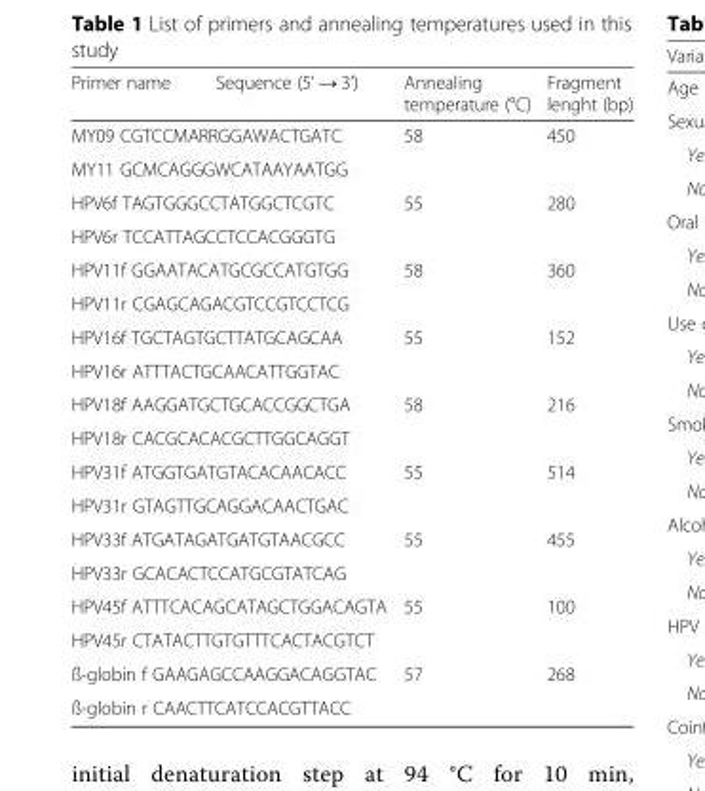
<table><thead><tr><td>Primer name</td><td>Sequence (5’ → 3’)</td><td>Annealing temperature (°C)</td><td>Fragment lenght (bp)</td></tr></thead><tbody><tr><td colspan="2">MY09 CGTCCMARRGGAWACTGATC</td><td rowspan="2">58</td><td rowspan="2">450</td></tr><tr><td colspan="2">MY11 GCMCAGGGWCATAAYAATGG</td></tr><tr><td colspan="2">HPV6f TAGTGGGCCTATGGCTCGTC</td><td rowspan="2">55</td><td rowspan="2">280</td></tr><tr><td colspan="2">HPV6r TCCATTAGCCTCCACGGGTG</td></tr><tr><td colspan="2">HPV11f GGAATACATGCGCCATGTGG</td><td rowspan="2">58</td><td rowspan="2">360</td></tr><tr><td colspan="2">HPV11r CGAGCAGACGTCCGTCCTCG</td></tr><tr><td colspan="2">HPV16f TGCTAGTGCTTATGCAGCAA</td><td rowspan="2">55</td><td rowspan="2">152</td></tr><tr><td colspan="2">HPV16r ATTTACTGCAACATTGGTAC</td></tr><tr><td colspan="2">HPV18f AAGGATGCTGCACCGGCTGA</td><td rowspan="2">58</td><td rowspan="2">216</td></tr><tr><td colspan="2">HPV18r CACGCACACGCTTGGCAGGT</td></tr><tr><td colspan="2">HPV31f ATGGTGATGTACACAACACC</td><td rowspan="2">55</td><td rowspan="2">514</td></tr><tr><td colspan="2">HPV31r GTAGTTGCAGGACAACTGAC</td></tr><tr><td colspan="2">HPV33f ATGATAGATGATGTAACGCC</td><td rowspan="2">55</td><td rowspan="2">455</td></tr><tr><td colspan="2">HPV33r GCACACTCCATGCGTATCAG</td></tr><tr><td colspan="2">HPV45f ATTTCACAGCATAGCTGGACAGTA</td><td rowspan="2">55</td><td rowspan="2">100</td></tr><tr><td colspan="2">HPV45r CTATACTTGTGTTTCACTACGTCT</td></tr><tr><td colspan="2">ß-globin f GAAGAGCCAAGGACAGGTAC</td><td rowspan="2">57</td><td rowspan="2">268</td></tr><tr><td colspan="2">ß-globin r CAACTTCATCCACGTTACC</td></tr></tbody></table>